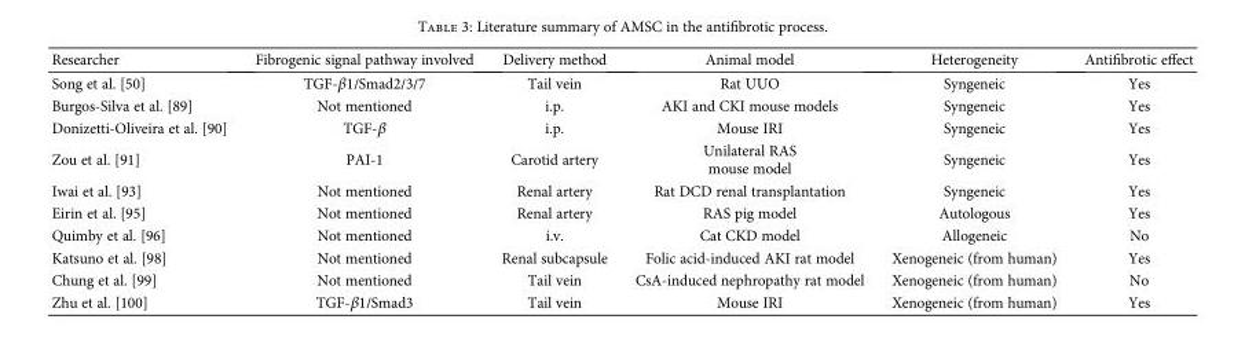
<table><thead><tr><td>Researcher</td><td>Fibrogenic signal pathway involved</td><td>Delivery method</td><td>Animal model</td><td>Heterogeneity</td><td>Antifibrotic effect</td></tr></thead><tbody><tr><td>Song et al. [50]</td><td>TGF-β1/Smad2/3/7</td><td>Tail vein</td><td>Rat UUO</td><td>Syngeneic</td><td>Yes</td></tr><tr><td>Burgos-Silva et al. [89]</td><td>Not mentioned</td><td>i.p.</td><td>AKI and CKI mouse models</td><td>Syngeneic</td><td>Yes</td></tr><tr><td>Donizetti-Oliveira et al. [90]</td><td>TGF-β</td><td>i.p.</td><td>Mouse IRI</td><td>Syngeneic</td><td>Yes</td></tr><tr><td>Zou et al. [91]</td><td>PAI-1</td><td>Carotid artery</td><td>Unilateral RAS mouse model</td><td>Syngeneic</td><td>Yes</td></tr><tr><td>Iwai et al. [93]</td><td>Not mentioned</td><td>Renal artery</td><td>Rat DCD renal transplantation</td><td>Syngeneic</td><td>Yes</td></tr><tr><td>Eirin et al. [95]</td><td>Not mentioned</td><td>Renal artery</td><td>RAS pig model</td><td>Autologous</td><td>Yes</td></tr><tr><td>Quimby et al. [96]</td><td>Not mentioned</td><td>i.v.</td><td>Cat CKD model</td><td>Allogeneic</td><td>No</td></tr><tr><td>Katsuno et al. [98]</td><td>Not mentioned</td><td>Renal subcapsule</td><td>Folic acid-induced AKI rat model</td><td>Xenogeneic (from human)</td><td>Yes</td></tr><tr><td>Chung et al. [99]</td><td>Not mentioned</td><td>Tail vein</td><td>CsA-induced nephropathy rat model</td><td>Xenogeneic (from human)</td><td>No</td></tr><tr><td>Zhu et al. [100]</td><td>TGF-β1/Smad3</td><td>Tail vein</td><td>Mouse IRI</td><td>Xenogeneic (from human)</td><td>Yes</td></tr></tbody></table>